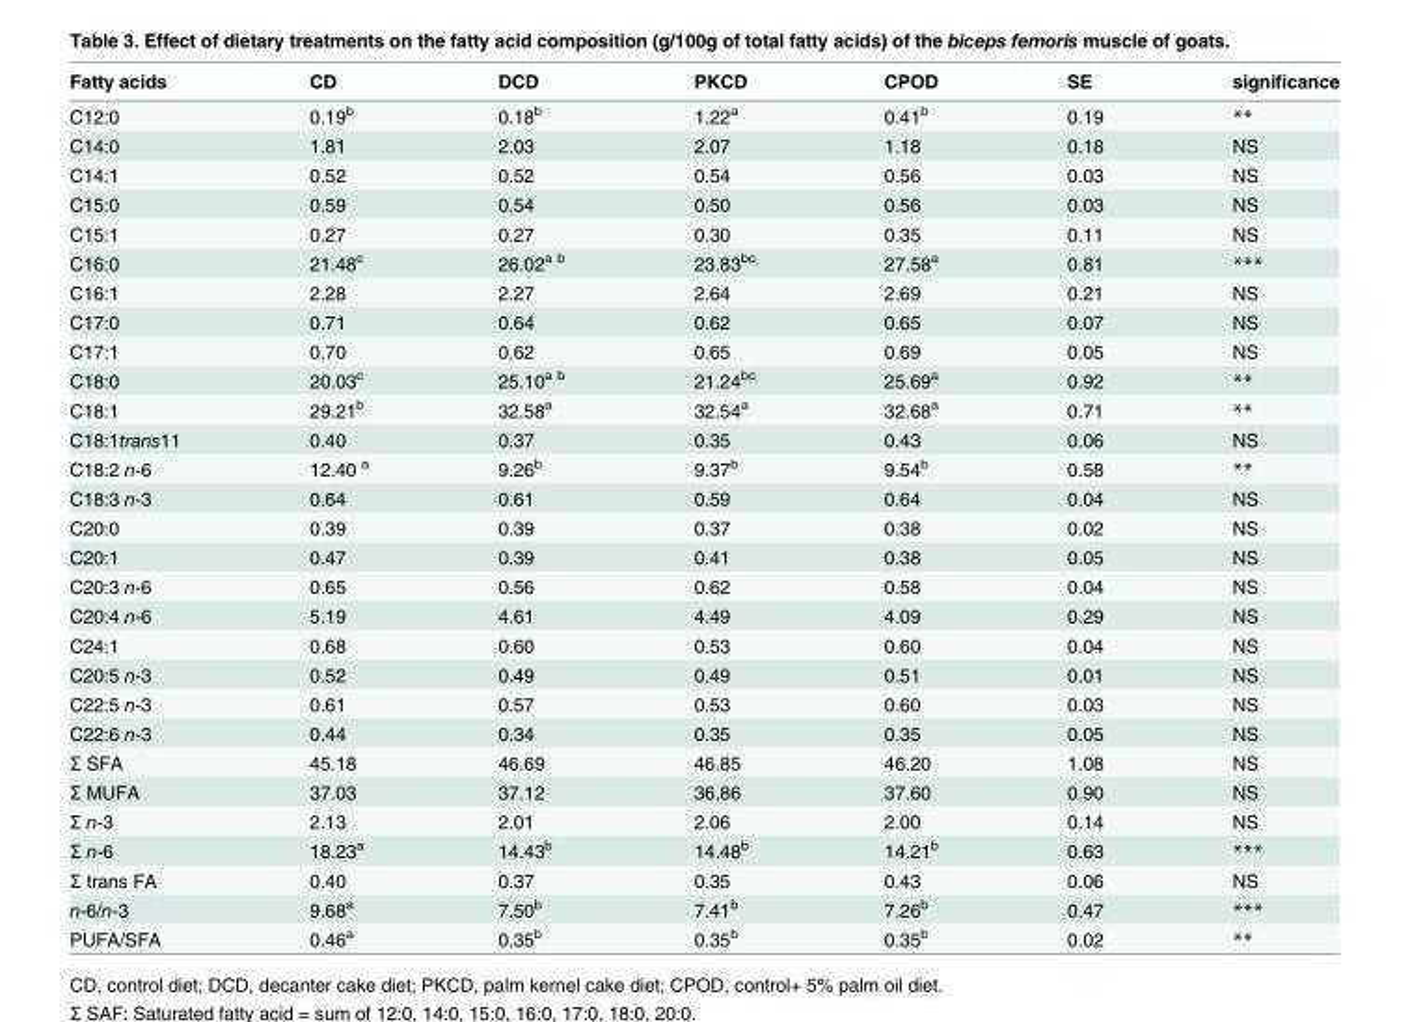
<table><thead><tr><td>Fatty acids</td><td>CD</td><td>DCD</td><td>PKCD</td><td>CPOD</td><td>SE</td><td>significance</td></tr></thead><tbody><tr><td>C12:0</td><td>0.19<sup>b</sup></td><td>0.18<sup>b</sup></td><td>1.22<sup>a</sup></td><td>0.41<sup>b</sup></td><td>0.19</td><td>**</td></tr><tr><td>C14:0</td><td>1.81</td><td>2.03</td><td>2.07</td><td>1.18</td><td>0.18</td><td>NS</td></tr><tr><td>C14:1</td><td>0.52</td><td>0.52</td><td>0.54</td><td>0.56</td><td>0.03</td><td>NS</td></tr><tr><td>C15:0</td><td>0.59</td><td>0.54</td><td>0.50</td><td>0.56</td><td>0.03</td><td>NS</td></tr><tr><td>C15:1</td><td>0.27</td><td>0.27</td><td>0.30</td><td>0.35</td><td>0.11</td><td>NS</td></tr><tr><td>C16:0</td><td>21.48<sup>c</sup></td><td>26.02<sup>a b</sup></td><td>23.83<sup>bc</sup></td><td>27.58<sup>a</sup></td><td>0.81</td><td>***</td></tr><tr><td>C16:1</td><td>2.28</td><td>2.27</td><td>2.64</td><td>2.69</td><td>0.21</td><td>NS</td></tr><tr><td>C17:0</td><td>0.71</td><td>0.64</td><td>0.62</td><td>0.65</td><td>0.07</td><td>NS</td></tr><tr><td>C17:1</td><td>0.70</td><td>0.62</td><td>0.65</td><td>0.69</td><td>0.05</td><td>NS</td></tr><tr><td>C18:0</td><td>20.03<sup>c</sup></td><td>25.10<sup>a b</sup></td><td>21.24<sup>bc</sup></td><td>25.69<sup>a</sup></td><td>0.92</td><td>**</td></tr><tr><td>C18:1</td><td>29.21<sup>b</sup></td><td>32.58<sup>a</sup></td><td>32.54<sup>a</sup></td><td>32.68<sup>a</sup></td><td>0.71</td><td>**</td></tr><tr><td>C18:1trans11</td><td>0.40</td><td>0.37</td><td>0.35</td><td>0.43</td><td>0.06</td><td>NS</td></tr><tr><td>C18:2 n-6</td><td>12.40 <sup>a</sup></td><td>9.26<sup>b</sup></td><td>9.37<sup>b</sup></td><td>9.54<sup>b</sup></td><td>0.58</td><td>**</td></tr><tr><td>C18:3 n-3</td><td>0.64</td><td>0.61</td><td>0.59</td><td>0.64</td><td>0.04</td><td>NS</td></tr><tr><td>C20:0</td><td>0.39</td><td>0.39</td><td>0.37</td><td>0.38</td><td>0.02</td><td>NS</td></tr><tr><td>C20:1</td><td>0.47</td><td>0.39</td><td>0.41</td><td>0.38</td><td>0.05</td><td>NS</td></tr><tr><td>C20:3 n-6</td><td>0.65</td><td>0.56</td><td>0.62</td><td>0.58</td><td>0.04</td><td>NS</td></tr><tr><td>C20:4 n-6</td><td>5.19</td><td>4.61</td><td>4.49</td><td>4.09</td><td>0.29</td><td>NS</td></tr><tr><td>C24:1</td><td>0.68</td><td>0.60</td><td>0.53</td><td>0.60</td><td>0.04</td><td>NS</td></tr><tr><td>C20:5 n-3</td><td>0.52</td><td>0.49</td><td>0.49</td><td>0.51</td><td>0.01</td><td>NS</td></tr><tr><td>C22:5 n-3</td><td>0.61</td><td>0.57</td><td>0.53</td><td>0.60</td><td>0.03</td><td>NS</td></tr><tr><td>C22:6 n-3</td><td>0.44</td><td>0.34</td><td>0.35</td><td>0.35</td><td>0.05</td><td>NS</td></tr><tr><td>Σ SFA</td><td>45.18</td><td>46.69</td><td>46.85</td><td>46.20</td><td>1.08</td><td>NS</td></tr><tr><td>Σ MUFA</td><td>37.03</td><td>37.12</td><td>36.86</td><td>37.60</td><td>0.90</td><td>NS</td></tr><tr><td>Σ n-3</td><td>2.13</td><td>2.01</td><td>2.06</td><td>2.00</td><td>0.14</td><td>NS</td></tr><tr><td>Σ n-6</td><td>18.23<sup>a</sup></td><td>14.43<sup>b</sup></td><td>14.48<sup>b</sup></td><td>14.21<sup>b</sup></td><td>0.63</td><td>***</td></tr><tr><td>Σ trans FA</td><td>0.40</td><td>0.37</td><td>0.35</td><td>0.43</td><td>0.06</td><td>NS</td></tr><tr><td>n-6/n-3</td><td>9.68<sup>a</sup></td><td>7.50<sup>b</sup></td><td>7.41<sup>b</sup></td><td>7.26<sup>b</sup></td><td>0.47</td><td>***</td></tr><tr><td>PUFA/SFA</td><td>0.46<sup>a</sup></td><td>0.35<sup>b</sup></td><td>0.35<sup>b</sup></td><td>0.35<sup>b</sup></td><td>0.02</td><td>**</td></tr></tbody></table>